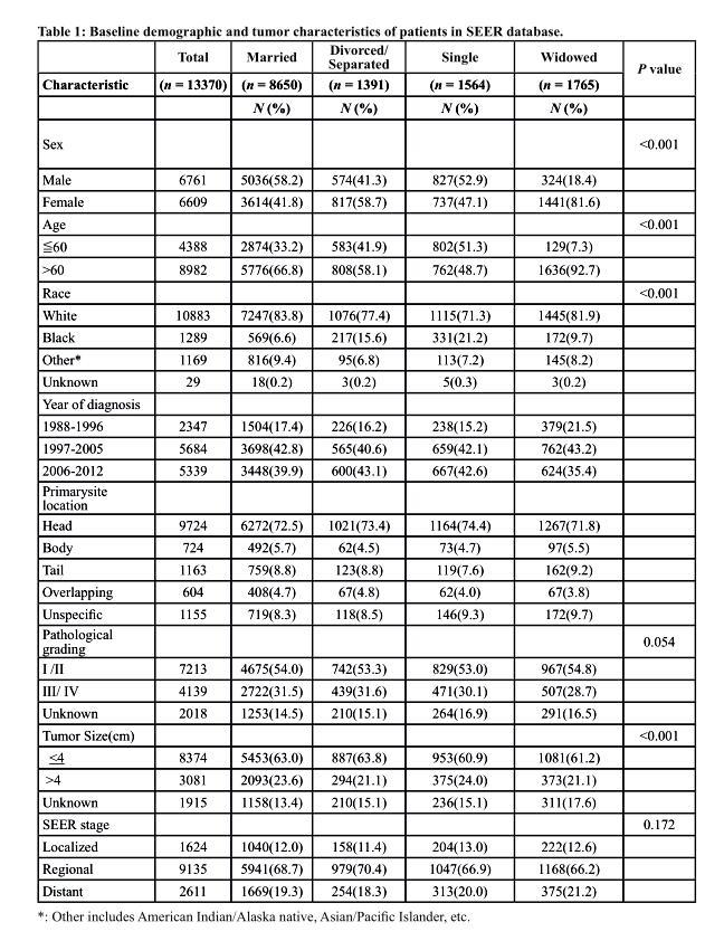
<table><thead><tr><td rowspan="3">characteristic</td><td rowspan="3">total (n = 13370)</td><td rowspan="3">Married (n = 8650) N (%)</td><td rowspan="3">Divorced/ separated (n = 1391) N (%)</td><td rowspan="3">single (n = 1564) N (%)</td><td rowspan="3">Widowed (n = 1765) N (%)</td><td rowspan="3">P value</td></tr><tr></tr><tr></tr></thead><tbody><tr><td>Sex</td><td></td><td></td><td></td><td></td><td></td><td>&lt;0.001</td></tr><tr><td>Male</td><td>6761</td><td>5036(58.2)</td><td>574(41.3)</td><td>827(52.9)</td><td>324(18.4)</td><td></td></tr><tr><td>Female</td><td>6609</td><td>3614(41.8)</td><td>817(58.7)</td><td>737(47.1)</td><td>1441(81.6)</td><td></td></tr><tr><td>Age</td><td></td><td></td><td></td><td></td><td></td><td>&lt;0.001</td></tr><tr><td>≦60</td><td>4388</td><td>2874(33.2)</td><td>583(41.9)</td><td>802(51.3)</td><td>129(7.3)</td><td></td></tr><tr><td>&gt;60</td><td>8982</td><td>5776(66.8)</td><td>808(58.1)</td><td>762(48.7)</td><td>1636(92.7)</td><td></td></tr><tr><td>Race</td><td></td><td></td><td></td><td></td><td></td><td>&lt;0.001</td></tr><tr><td>White</td><td>10883</td><td>7247(83.8)</td><td>1076(77.4)</td><td>1115(71.3)</td><td>1445(81.9)</td><td></td></tr><tr><td>Black</td><td>1289</td><td>569(6.6)</td><td>217(15.6)</td><td>331(21.2)</td><td>172(9.7)</td><td></td></tr><tr><td>Other*</td><td>1169</td><td>816(9.4)</td><td>95(6.8)</td><td>113(7.2)</td><td>145(8.2)</td><td></td></tr><tr><td>Unknown</td><td>29</td><td>18(0.2)</td><td>3(0.2)</td><td>5(0.3)</td><td>3(0.2)</td><td></td></tr><tr><td colspan="7">Year of diagnosis</td></tr><tr><td>1988-1996</td><td>2347</td><td>1504(17.4)</td><td>226(16.2)</td><td>238(15.2)</td><td>379(21.5)</td><td></td></tr><tr><td>1997-2005</td><td>5684</td><td>3698(42.8)</td><td>565(40.6)</td><td>659(42.1)</td><td>762(43.2)</td><td></td></tr><tr><td>2006-2012</td><td>5339</td><td>3448(39.9)</td><td>600(43.1)</td><td>667(42.6)</td><td>624(35.4)</td><td></td></tr><tr><td colspan="7">Primarysite location</td></tr><tr><td>Head</td><td>9724</td><td>6272(72.5)</td><td>1021(73.4)</td><td>1164(74.4)</td><td>1267(71.8)</td><td></td></tr><tr><td>Body</td><td>724</td><td>492(5.7)</td><td>62(4.5)</td><td>73(4.7)</td><td>97(5.5)</td><td></td></tr><tr><td>Tail</td><td>1163</td><td>759(8.8)</td><td>123(8.8)</td><td>119(7.6)</td><td>162(9.2)</td><td></td></tr><tr><td>Overlapping</td><td>604</td><td>408(4.7)</td><td>67(4.8)</td><td>62(4.0)</td><td>67(3.8)</td><td></td></tr><tr><td>Unspecific</td><td>1155</td><td>719(8.3)</td><td>118(8.5)</td><td>146(9.3)</td><td>172(9.7)</td><td></td></tr><tr><td>Pathological grading</td><td></td><td></td><td></td><td></td><td></td><td>0.054</td></tr><tr><td>I /II</td><td>7213</td><td>4675(54.0)</td><td>742(53.3)</td><td>829(53.0)</td><td>967(54.8)</td><td></td></tr><tr><td>III/ IV</td><td>4139</td><td>2722(31.5)</td><td>439(31.6)</td><td>471(30.1)</td><td>507(28.7)</td><td></td></tr><tr><td>Unknown</td><td>2018</td><td>1253(14.5)</td><td>210(15.1)</td><td>264(16.9)</td><td>291(16.5)</td><td></td></tr><tr><td>Tumor Size(cm)</td><td></td><td></td><td></td><td></td><td></td><td>&lt;0.001</td></tr><tr><td>&lt;4</td><td>8374</td><td>5453(63.0)</td><td>887(63.8)</td><td>953(60.9)</td><td>1081(61.2)</td><td></td></tr><tr><td>&gt;4</td><td>3081</td><td>2093(23.6)</td><td>294(21.1)</td><td>375(24.0)</td><td>373(21.1)</td><td></td></tr><tr><td>Unknown</td><td>1915</td><td>1158(13.4)</td><td>210(15.1)</td><td>236(15.1)</td><td>311(17.6)</td><td></td></tr><tr><td>SEER stage</td><td></td><td></td><td></td><td></td><td></td><td>0.172</td></tr><tr><td>Localized</td><td>1624</td><td>1040(12.0)</td><td>158(11.4)</td><td>204(13.0)</td><td>222(12.6)</td><td></td></tr><tr><td>Regional</td><td>9135</td><td>5941(68.7)</td><td>979(70.4)</td><td>1047(66.9)</td><td>1168(66.2)</td><td></td></tr><tr><td>Distant</td><td>2611</td><td>1669(19.3)</td><td>254(18.3)</td><td>313(20.0)</td><td>375(21.2)</td><td></td></tr></tbody></table>